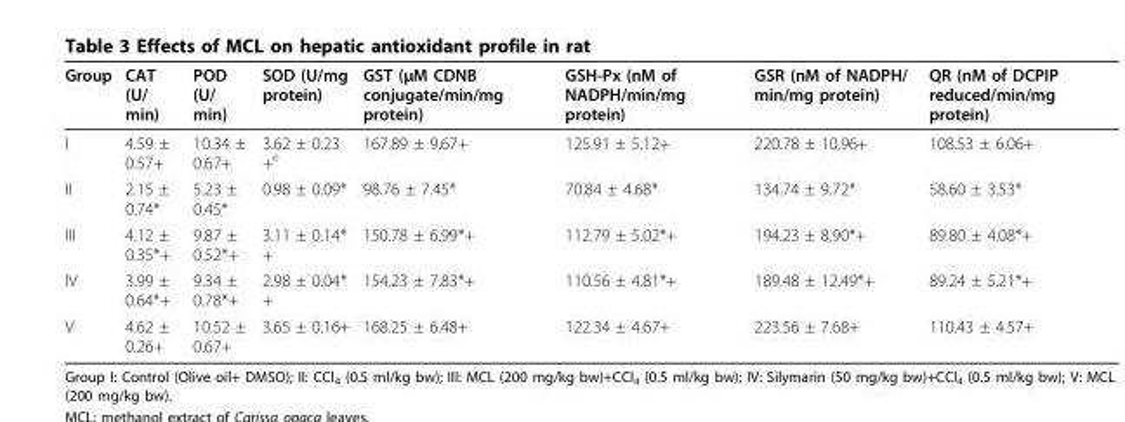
<table><thead><tr><td>Group</td><td>CAT (U/ min)</td><td>POD (U/ min)</td><td>SOD (U/mg protein)</td><td>GST (μM CDNB conjugate/min/mg protein)</td><td>GSH-Px (nM of NADPH/min/mg protein)</td><td>GSR (nM of NADPH/ min/mg protein)</td><td>QR (nM of DCPIP reduced/min/mg protein)</td></tr></thead><tbody><tr><td>I</td><td>4.59 ± 0.57+</td><td>10.34 ± 0.67+</td><td>3.62 ± 0.23 +<sup>e</sup></td><td>167.89 ± 9.67+</td><td>125.91 ± 5.12+</td><td>220.78 ± 10.96+</td><td>108.53 ± 6.06+</td></tr><tr><td>II</td><td>2.15 ± 0.74*</td><td>5.23 ± 0.45*</td><td>0.98 ± 0.09*</td><td>98.76 ± 7.45*</td><td>70.84 ± 4.68*</td><td>134.74 ± 9.72*</td><td>58.60 ± 3.53*</td></tr><tr><td>III</td><td>4.12 ± 0.35*+</td><td>9.87 ± 0.52*+</td><td>3.11 ± 0.14* +</td><td>150.78 ± 6.99*+</td><td>112.79 ± 5.02*+</td><td>194.23 ± 8.90*+</td><td>89.80 ± 4.08*+</td></tr><tr><td>IV</td><td>3.99 ± 0.64*+</td><td>9.34 ± 0.78*+</td><td>2.98 ± 0.04* +</td><td>154.23 ± 7.83*+</td><td>110.56 ± 4.81*+</td><td>189.48 ± 12.49*+</td><td>89.24 ± 5.21*+</td></tr><tr><td>V</td><td>4.62 ± 0.26+</td><td>10.52 ± 0.67+</td><td>3.65 ± 0.16+</td><td>168.25 ± 6.48+</td><td>122.34 ± 4.67+</td><td>223.56 ± 7.68+</td><td>110.43 ± 4.57+</td></tr></tbody></table>